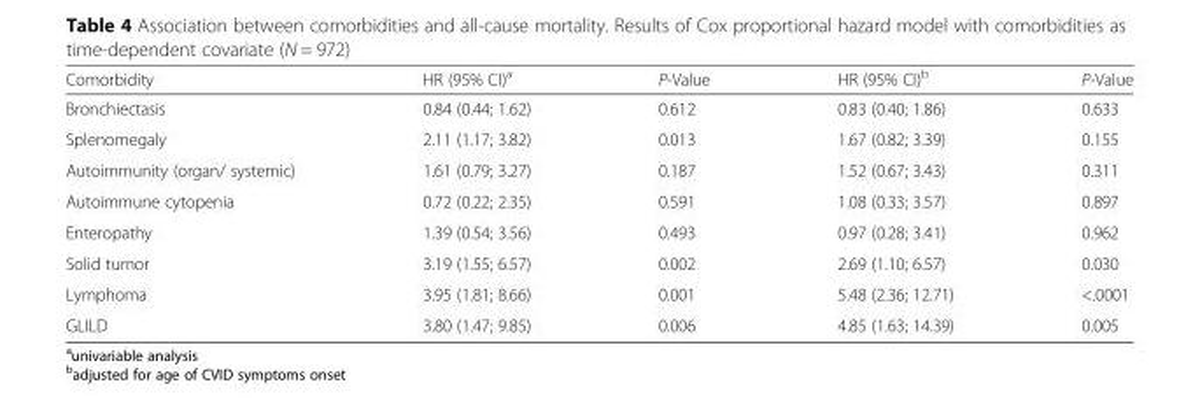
<table><thead><tr><td>Comorbidity</td><td>HR (95% CI)<sup>a</sup></td><td>P-Value</td><td>HR (95% CI)<sup>b</sup></td><td>P-Value</td></tr></thead><tbody><tr><td>Bronchiectasis</td><td>0.84 (0.44; 1.62)</td><td>0.612</td><td>0.83 (0.40; 1.86)</td><td>0.633</td></tr><tr><td>Splenomegaly</td><td>2.11 (1.17; 3.82)</td><td>0.013</td><td>1.67 (0.82; 3.39)</td><td>0.155</td></tr><tr><td>Autoimmunity (organ/ systemic)</td><td>1.61 (0.79; 3.27)</td><td>0.187</td><td>1.52 (0.67; 3.43)</td><td>0.311</td></tr><tr><td>Autoimmune cytopenia</td><td>0.72 (0.22; 2.35)</td><td>0.591</td><td>1.08 (0.33; 3.57)</td><td>0.897</td></tr><tr><td>Enteropathy</td><td>1.39 (0.54; 3.56)</td><td>0.493</td><td>0.97 (0.28; 3.41)</td><td>0.962</td></tr><tr><td>Solid tumor</td><td>3.19 (1.55; 6.57)</td><td>0.002</td><td>2.69 (1.10; 6.57)</td><td>0.030</td></tr><tr><td>Lymphoma</td><td>3.95 (1.81; 8.66)</td><td>0.001</td><td>5.48 (2.36; 12.71)</td><td>&lt;.0001</td></tr><tr><td>GLILD</td><td>3.80 (1.47; 9.85)</td><td>0.006</td><td>4.85 (1.63; 14.39)</td><td>0.005</td></tr></tbody></table>